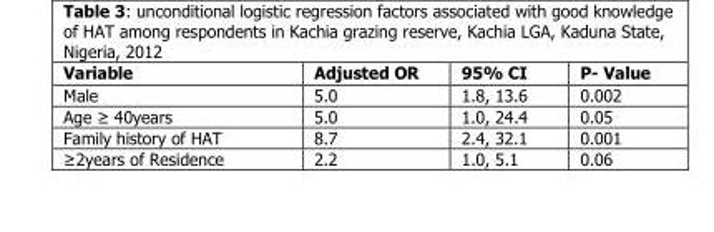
<table><thead><tr><td>Variable</td><td>Adjusted OR</td><td>95% CI</td><td>P- Value</td></tr></thead><tbody><tr><td>Male</td><td>5.0</td><td>1.8, 13.6</td><td>0.002</td></tr><tr><td>Age ≥ 40years</td><td>5.0</td><td>1.0, 24.4</td><td>0.05</td></tr><tr><td>Family history of HAT</td><td>8.7</td><td>2.4, 32.1</td><td>0.001</td></tr><tr><td>≥2years of Residence</td><td>2.2</td><td>1.0, 5.1</td><td>0.06</td></tr></tbody></table>